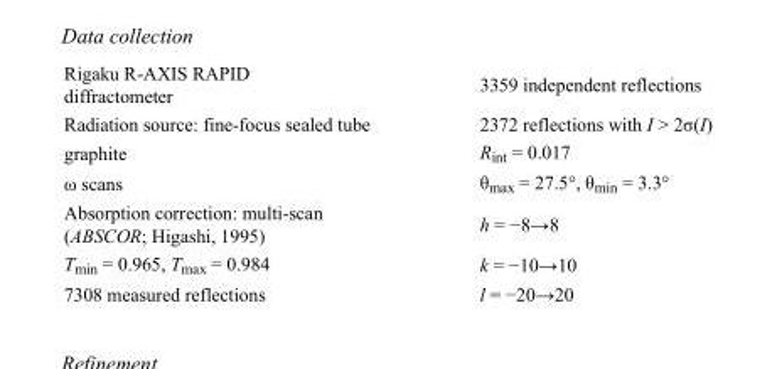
<table><tbody><tr><td>Rigaku R-AXIS RAPID diffractometer</td><td>3359 independent reflections</td></tr><tr><td>Radiation source: fine-focus sealed tube</td><td>2372 reflections with I &gt; 2σ(I)</td></tr><tr><td>graphite</td><td>R<sub>int</sub> = 0.017</td></tr><tr><td>ω scans</td><td>θ<sub>max</sub> = 27.5°, θ<sub>min</sub> = 3.3°</td></tr><tr><td>Absorption correction: multi-scan (ABSCOR; Higashi, 1995)</td><td>h = −8→8</td></tr><tr><td>T<sub>min</sub> = 0.965, T<sub>max</sub> = 0.984</td><td>k = −10→10</td></tr><tr><td>7308 measured reflections</td><td>l = −20→20</td></tr></tbody></table>